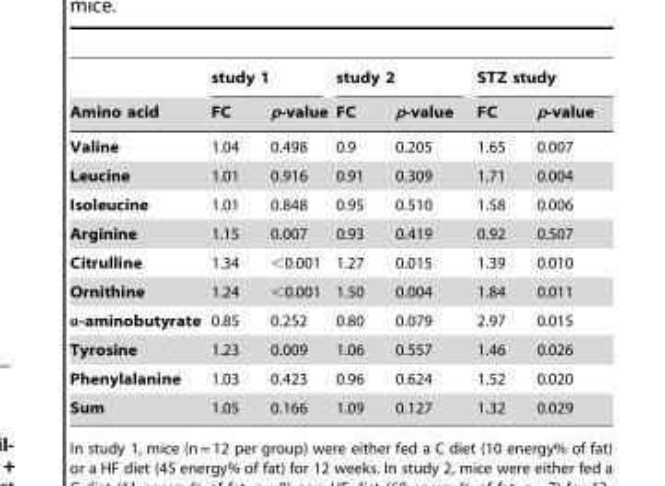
<table><thead><tr><td rowspan="2">Amino acid</td><td colspan="2">study 1</td><td colspan="2">study 2</td><td colspan="2">STZ study</td></tr><tr><td>FC</td><td>p-value</td><td>FC</td><td>p-value</td><td>FC</td><td>p-value</td></tr></thead><tbody><tr><td>Valine</td><td>1.04</td><td>0.498</td><td>0.9</td><td>0.205</td><td>1.65</td><td>0.007</td></tr><tr><td>Leucine</td><td>1.01</td><td>0.916</td><td>0.91</td><td>0.309</td><td>1.71</td><td>0.004</td></tr><tr><td>Isoleucine</td><td>1.01</td><td>0.848</td><td>0.95</td><td>0.510</td><td>1.58</td><td>0.006</td></tr><tr><td>Arginine</td><td>1.15</td><td>0.007</td><td>0.93</td><td>0.419</td><td>0.92</td><td>0.507</td></tr><tr><td>Citrulline</td><td>1.34</td><td>&lt;0.001</td><td>1.27</td><td>0.015</td><td>1.39</td><td>0.010</td></tr><tr><td>Ornithine</td><td>1.24</td><td>&lt;0.001</td><td>1.50</td><td>0.004</td><td>1.84</td><td>0.011</td></tr><tr><td>α-aminobutyrate</td><td>0.85</td><td>0.252</td><td>0.80</td><td>0.079</td><td>2.97</td><td>0.015</td></tr><tr><td>Tyrosine</td><td>1.23</td><td>0.009</td><td>1.06</td><td>0.557</td><td>1.46</td><td>0.026</td></tr><tr><td>Phenylalanine</td><td>1.03</td><td>0.423</td><td>0.96</td><td>0.624</td><td>1.52</td><td>0.020</td></tr><tr><td>Sum</td><td>1.05</td><td>0.166</td><td>1.09</td><td>0.127</td><td>1.32</td><td>0.029</td></tr></tbody></table>